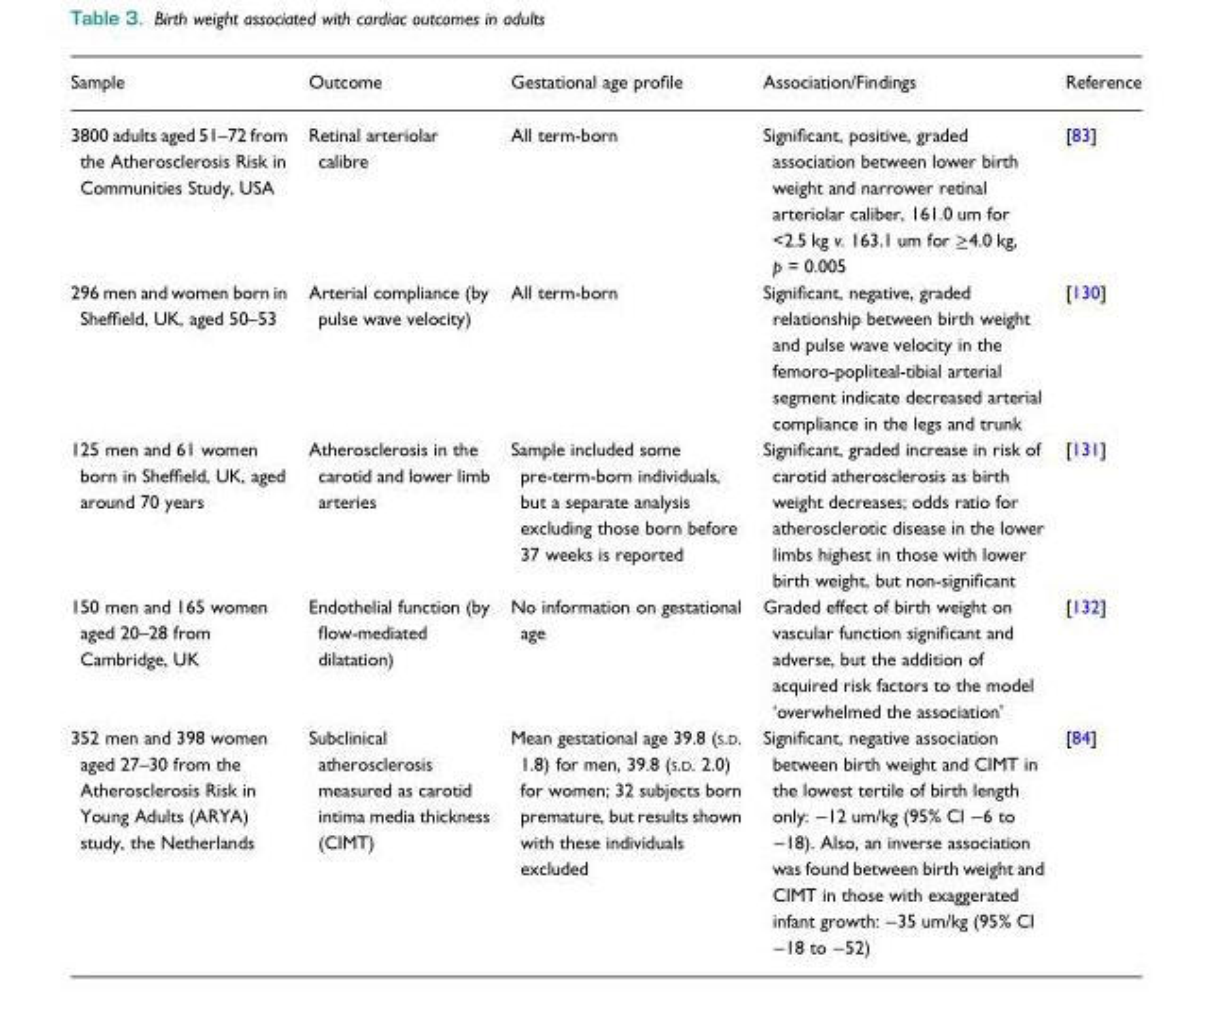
<table><thead><tr><td>Sample</td><td>Outcome</td><td>Gestational age profile</td><td>Association/Findings</td><td>Reference</td></tr></thead><tbody><tr><td>3800 adults aged 51–72 from the Atherosclerosis Risk in Communities Study, USA</td><td>Retinal arteriolar calibre</td><td>All term-born</td><td>Significant, positive, graded association between lower birth weight and narrower retinal arteriolar caliber, 161.0 um for &lt;2.5 kg v. 163.1 um for ≥4.0 kg, p = 0.005</td><td>[83]</td></tr><tr><td>296 men and women born in Sheffield, UK, aged 50–53</td><td>Arterial compliance (by pulse wave velocity)</td><td>All term-born</td><td>Significant, negative, graded relationship between birth weight and pulse wave velocity in the femoro-popliteal-tibial arterial segment indicate decreased arterial compliance in the legs and trunk</td><td>[130]</td></tr><tr><td>125 men and 61 women born in Sheffield, UK, aged around 70 years</td><td>Atherosclerosis in the carotid and lower limb arteries</td><td>Sample included some pre-term-born individuals, but a separate analysis excluding those born before 37 weeks is reported</td><td>Significant, graded increase in risk of carotid atherosclerosis as birth weight decreases; odds ratio for atherosclerotic disease in the lower limbs highest in those with lower birth weight, but non-significant</td><td>[131]</td></tr><tr><td>150 men and 165 women aged 20–28 from Cambridge, UK</td><td>Endothelial function (by flow-mediated dilatation)</td><td>No information on gestational age</td><td>Graded effect of birth weight on vascular function significant and adverse, but the addition of acquired risk factors to the model ‘overwhelmed the association’</td><td>[132]</td></tr><tr><td>352 men and 398 women aged 27–30 from the Atherosclerosis Risk in Young Adults (ARYA) study, the Netherlands</td><td>Subclinical atherosclerosis measured as carotid intima media thickness (CIMT)</td><td>Mean gestational age 39.8 (S.D. 1.8) for men, 39.8 (S.D. 2.0) for women; 32 subjects born premature, but results shown with these individuals excluded</td><td>Significant, negative association between birth weight and CIMT in the lowest tertile of birth length only: −12 um/kg (95% CI −6 to −18). Also, an inverse association was found between birth weight and CIMT in those with exaggerated infant growth: −35 um/kg (95% CI −18 to −52)</td><td>[84]</td></tr></tbody></table>